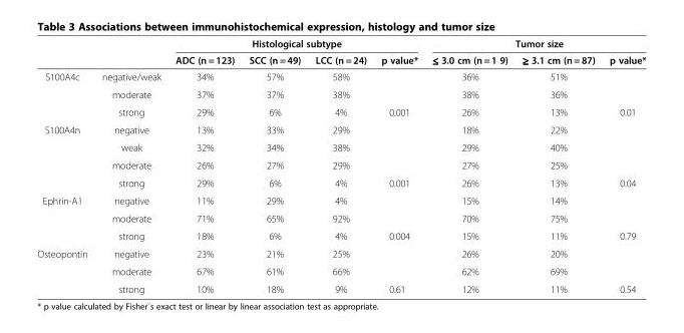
<table><thead><tr><td rowspan="2"></td><td rowspan="2"></td><td colspan="4">Histological subtype</td><td colspan="3">Tumor size</td></tr><tr><td>ADC (n = 123)</td><td>SCC (n = 49)</td><td>LCC (n = 24)</td><td>p value*</td><td>≤≤≤≤ 3.0 cm (n = 1 9)</td><td>≥≥≥≥ 3.1 cm (n = 87)</td><td>p value*</td></tr></thead><tbody><tr><td rowspan="3">S100A4c</td><td>negative/weak</td><td>34%</td><td>57%</td><td>58%</td><td></td><td>36%</td><td>51%</td><td></td></tr><tr><td>moderate</td><td>37%</td><td>37%</td><td>38%</td><td></td><td>38%</td><td>36%</td><td></td></tr><tr><td>strong</td><td>29%</td><td>6%</td><td>4%</td><td>0.001</td><td>26%</td><td>13%</td><td>0.01</td></tr><tr><td rowspan="4">S100A4n</td><td>negative</td><td>13%</td><td>33%</td><td>29%</td><td></td><td>18%</td><td>22%</td><td></td></tr><tr><td>weak</td><td>32%</td><td>34%</td><td>38%</td><td></td><td>29%</td><td>40%</td><td></td></tr><tr><td>moderate</td><td>26%</td><td>27%</td><td>29%</td><td></td><td>27%</td><td>25%</td><td></td></tr><tr><td>strong</td><td>29%</td><td>6%</td><td>4%</td><td>0.001</td><td>26%</td><td>13%</td><td>0.04</td></tr><tr><td rowspan="3">Ephrin-A1</td><td>negative</td><td>11%</td><td>29%</td><td>4%</td><td></td><td>15%</td><td>14%</td><td></td></tr><tr><td>moderate</td><td>71%</td><td>65%</td><td>92%</td><td></td><td>70%</td><td>75%</td><td></td></tr><tr><td>strong</td><td>18%</td><td>6%</td><td>4%</td><td>0.004</td><td>15%</td><td>11%</td><td>0.79</td></tr><tr><td rowspan="3">Osteopontin</td><td>negative</td><td>23%</td><td>21%</td><td>25%</td><td></td><td>26%</td><td>20%</td><td></td></tr><tr><td>moderate</td><td>67%</td><td>61%</td><td>66%</td><td></td><td>62%</td><td>69%</td><td></td></tr><tr><td>strong</td><td>10%</td><td>18%</td><td>9%</td><td>0.61</td><td>12%</td><td>11%</td><td>0.54</td></tr></tbody></table>